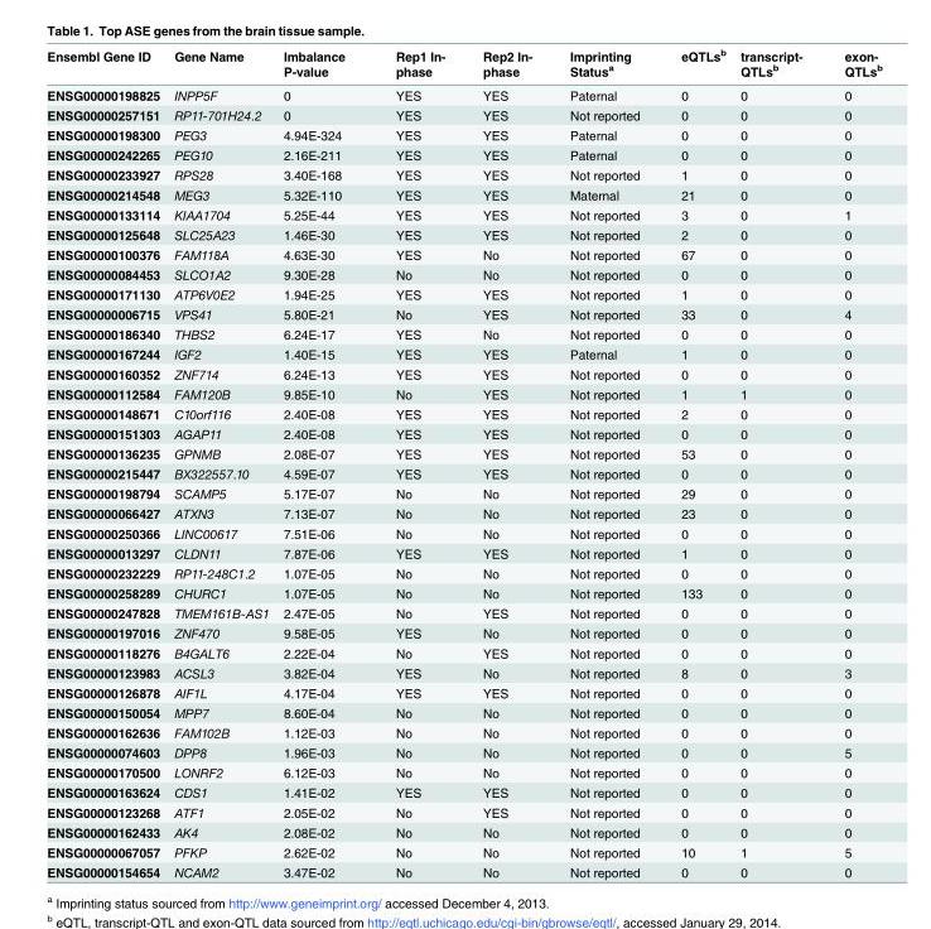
<table><thead><tr><td>Ensembl Gene ID</td><td>Gene Name</td><td>Imbalance P-value</td><td>Rep1 In- phase</td><td>Rep2 In- phase</td><td>Imprinting Status<sup>a</sup></td><td>eQTLs<sup>b</sup></td><td>transcript- QTLs<sup>b</sup></td><td>exon- QTLs<sup>b</sup></td></tr></thead><tbody><tr><td>ENSG00000198825</td><td>INPP5F</td><td>0</td><td>YES</td><td>YES</td><td>Paternal</td><td>0</td><td>0</td><td>0</td></tr><tr><td>ENSG00000257151</td><td>RP11-701H24.2</td><td>0</td><td>YES</td><td>YES</td><td>Not reported</td><td>0</td><td>0</td><td>0</td></tr><tr><td>ENSG00000198300</td><td>PEG3</td><td>4.94E-324</td><td>YES</td><td>YES</td><td>Paternal</td><td>0</td><td>0</td><td>0</td></tr><tr><td>ENSG00000242265</td><td>PEG10</td><td>2.16E-211</td><td>YES</td><td>YES</td><td>Paternal</td><td>0</td><td>0</td><td>0</td></tr><tr><td>ENSG00000233927</td><td>RPS28</td><td>3.40E-168</td><td>YES</td><td>YES</td><td>Not reported</td><td>1</td><td>0</td><td>0</td></tr><tr><td>ENSG00000214548</td><td>MEG3</td><td>5.32E-110</td><td>YES</td><td>YES</td><td>Maternal</td><td>21</td><td>0</td><td>0</td></tr><tr><td>ENSG00000133114</td><td>KIAA1704</td><td>5.25E-44</td><td>YES</td><td>YES</td><td>Not reported</td><td>3</td><td>0</td><td>1</td></tr><tr><td>ENSG00000125648</td><td>SLC25A23</td><td>1.46E-30</td><td>YES</td><td>YES</td><td>Not reported</td><td>2</td><td>0</td><td>0</td></tr><tr><td>ENSG00000100376</td><td>FAM118A</td><td>4.63E-30</td><td>YES</td><td>No</td><td>Not reported</td><td>67</td><td>0</td><td>0</td></tr><tr><td>ENSG00000084453</td><td>SLCO1A2</td><td>9.30E-28</td><td>No</td><td>No</td><td>Not reported</td><td>0</td><td>0</td><td>0</td></tr><tr><td>ENSG00000171130</td><td>ATP6V0E2</td><td>1.94E-25</td><td>YES</td><td>YES</td><td>Not reported</td><td>1</td><td>0</td><td>0</td></tr><tr><td>ENSG00000006715</td><td>VPS41</td><td>5.80E-21</td><td>No</td><td>YES</td><td>Not reported</td><td>33</td><td>0</td><td>4</td></tr><tr><td>ENSG00000186340</td><td>THBS2</td><td>6.24E-17</td><td>YES</td><td>No</td><td>Not reported</td><td>0</td><td>0</td><td>0</td></tr><tr><td>ENSG00000167244</td><td>IGF2</td><td>1.40E-15</td><td>YES</td><td>YES</td><td>Paternal</td><td>1</td><td>0</td><td>0</td></tr><tr><td>ENSG00000160352</td><td>ZNF714</td><td>6.24E-13</td><td>YES</td><td>YES</td><td>Not reported</td><td>0</td><td>0</td><td>0</td></tr><tr><td>ENSG00000112584</td><td>FAM120B</td><td>9.85E-10</td><td>No</td><td>YES</td><td>Not reported</td><td>1</td><td>1</td><td>0</td></tr><tr><td>ENSG00000148671</td><td>C10orf116</td><td>2.40E-08</td><td>YES</td><td>YES</td><td>Not reported</td><td>2</td><td>0</td><td>0</td></tr><tr><td>ENSG00000151303</td><td>AGAP11</td><td>2.40E-08</td><td>YES</td><td>YES</td><td>Not reported</td><td>0</td><td>0</td><td>0</td></tr><tr><td>ENSG00000136235</td><td>GPNMB</td><td>2.08E-07</td><td>YES</td><td>YES</td><td>Not reported</td><td>53</td><td>0</td><td>0</td></tr><tr><td>ENSG00000215447</td><td>BX322557.10</td><td>4.59E-07</td><td>YES</td><td>YES</td><td>Not reported</td><td>0</td><td>0</td><td>0</td></tr><tr><td>ENSG00000198794</td><td>SCAMP5</td><td>5.17E-07</td><td>No</td><td>No</td><td>Not reported</td><td>29</td><td>0</td><td>0</td></tr><tr><td>ENSG00000066427</td><td>ATXN3</td><td>7.13E-07</td><td>No</td><td>No</td><td>Not reported</td><td>23</td><td>0</td><td>0</td></tr><tr><td>ENSG00000250366</td><td>LINC00617</td><td>7.51E-06</td><td>No</td><td>No</td><td>Not reported</td><td>0</td><td>0</td><td>0</td></tr><tr><td>ENSG00000013297</td><td>CLDN11</td><td>7.87E-06</td><td>YES</td><td>YES</td><td>Not reported</td><td>1</td><td>0</td><td>0</td></tr><tr><td>ENSG00000232229</td><td>RP11-248C1.2</td><td>1.07E-05</td><td>No</td><td>No</td><td>Not reported</td><td>0</td><td>0</td><td>0</td></tr><tr><td>ENSG00000258289</td><td>CHURC1</td><td>1.07E-05</td><td>No</td><td>No</td><td>Not reported</td><td>133</td><td>0</td><td>0</td></tr><tr><td>ENSG00000247828</td><td>TMEM161B-AS1</td><td>2.47E-05</td><td>No</td><td>YES</td><td>Not reported</td><td>0</td><td>0</td><td>0</td></tr><tr><td>ENSG00000197016</td><td>ZNF470</td><td>9.58E-05</td><td>YES</td><td>No</td><td>Not reported</td><td>0</td><td>0</td><td>0</td></tr><tr><td>ENSG00000118276</td><td>B4GALT6</td><td>2.22E-04</td><td>No</td><td>YES</td><td>Not reported</td><td>0</td><td>0</td><td>0</td></tr><tr><td>ENSG00000123983</td><td>ACSL3</td><td>3.82E-04</td><td>YES</td><td>No</td><td>Not reported</td><td>8</td><td>0</td><td>3</td></tr><tr><td>ENSG00000126878</td><td>AIF1L</td><td>4.17E-04</td><td>YES</td><td>YES</td><td>Not reported</td><td>0</td><td>0</td><td>0</td></tr><tr><td>ENSG00000150054</td><td>MPP7</td><td>8.60E-04</td><td>No</td><td>No</td><td>Not reported</td><td>0</td><td>0</td><td>0</td></tr><tr><td>ENSG00000162636</td><td>FAM102B</td><td>1.12E-03</td><td>No</td><td>No</td><td>Not reported</td><td>0</td><td>0</td><td>0</td></tr><tr><td>ENSG00000074603</td><td>DPP8</td><td>1.96E-03</td><td>No</td><td>No</td><td>Not reported</td><td>0</td><td>0</td><td>5</td></tr><tr><td>ENSG00000170500</td><td>LONRF2</td><td>6.12E-03</td><td>No</td><td>No</td><td>Not reported</td><td>0</td><td>0</td><td>0</td></tr><tr><td>ENSG00000163624</td><td>CDS1</td><td>1.41E-02</td><td>YES</td><td>YES</td><td>Not reported</td><td>0</td><td>0</td><td>0</td></tr><tr><td>ENSG00000123268</td><td>ATF1</td><td>2.05E-02</td><td>No</td><td>YES</td><td>Not reported</td><td>0</td><td>0</td><td>0</td></tr><tr><td>ENSG00000162433</td><td>AK4</td><td>2.08E-02</td><td>No</td><td>No</td><td>Not reported</td><td>0</td><td>0</td><td>0</td></tr><tr><td>ENSG00000067057</td><td>PFKP</td><td>2.62E-02</td><td>No</td><td>No</td><td>Not reported</td><td>10</td><td>1</td><td>5</td></tr><tr><td>ENSG00000154654</td><td>NCAM2</td><td>3.47E-02</td><td>No</td><td>No</td><td>Not reported</td><td>0</td><td>0</td><td>0</td></tr></tbody></table>